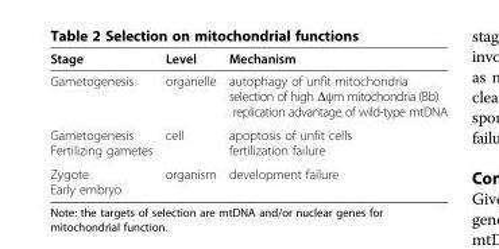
<table><thead><tr><td>Stage</td><td>Level</td><td>Mechanism</td></tr></thead><tbody><tr><td>Gametogenesis</td><td>organelle</td><td>autophagy of unfit mitochondria selection of high Δψm mitochondria (Bb) replication advantage of wild-type mtDNA</td></tr><tr><td>Gametogenesis Fertilizing gametes</td><td>cell</td><td>apoptosis of unfit cells fertilization failure</td></tr><tr><td>Zygote Early embryo</td><td>organism</td><td>development failure</td></tr></tbody></table>